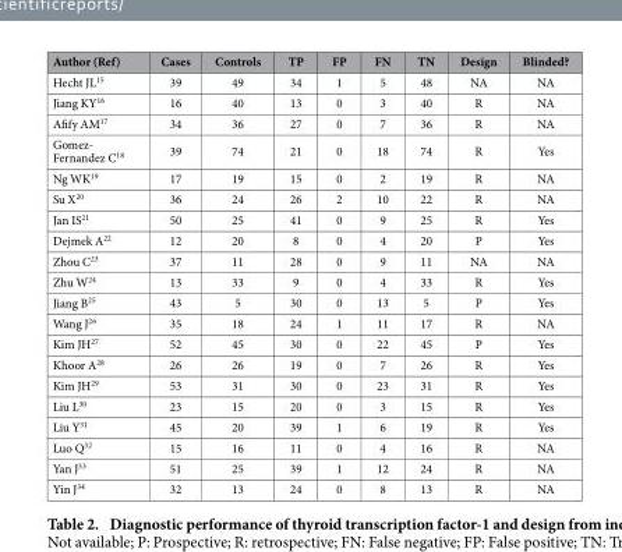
<table><thead><tr><td>Author (Ref)</td><td>Cases</td><td>Controls</td><td>TP</td><td>FP</td><td>FN</td><td>TN</td><td>Design</td><td>Blinded?</td></tr></thead><tbody><tr><td>Hecht JL<sup>15</sup></td><td>39</td><td>49</td><td>34</td><td>1</td><td>5</td><td>48</td><td>NA</td><td>NA</td></tr><tr><td>Jiang KY<sup>16</sup></td><td>16</td><td>40</td><td>13</td><td>0</td><td>3</td><td>40</td><td>R</td><td>NA</td></tr><tr><td>Afify AM<sup>17</sup></td><td>34</td><td>36</td><td>27</td><td>0</td><td>7</td><td>36</td><td>R</td><td>NA</td></tr><tr><td>Gomez- Fernandez C<sup>18</sup></td><td>39</td><td>74</td><td>21</td><td>0</td><td>18</td><td>74</td><td>R</td><td>Yes</td></tr><tr><td>Ng WK<sup>19</sup></td><td>17</td><td>19</td><td>15</td><td>0</td><td>2</td><td>19</td><td>R</td><td>NA</td></tr><tr><td>Su X<sup>20</sup></td><td>36</td><td>24</td><td>26</td><td>2</td><td>10</td><td>22</td><td>R</td><td>NA</td></tr><tr><td>Jan IS<sup>21</sup></td><td>50</td><td>25</td><td>41</td><td>0</td><td>9</td><td>25</td><td>R</td><td>Yes</td></tr><tr><td>Dejmek A<sup>22</sup></td><td>12</td><td>20</td><td>8</td><td>0</td><td>4</td><td>20</td><td>P</td><td>Yes</td></tr><tr><td>Zhou C<sup>23</sup></td><td>37</td><td>11</td><td>28</td><td>0</td><td>9</td><td>11</td><td>NA</td><td>NA</td></tr><tr><td>Zhu W<sup>24</sup></td><td>13</td><td>33</td><td>9</td><td>0</td><td>4</td><td>33</td><td>R</td><td>Yes</td></tr><tr><td>Jiang B<sup>25</sup></td><td>43</td><td>5</td><td>30</td><td>0</td><td>13</td><td>5</td><td>P</td><td>Yes</td></tr><tr><td>Wang J<sup>26</sup></td><td>35</td><td>18</td><td>24</td><td>1</td><td>11</td><td>17</td><td>R</td><td>NA</td></tr><tr><td>Kim JH<sup>27</sup></td><td>52</td><td>45</td><td>30</td><td>0</td><td>22</td><td>45</td><td>P</td><td>Yes</td></tr><tr><td>Khoor A<sup>28</sup></td><td>26</td><td>26</td><td>19</td><td>0</td><td>7</td><td>26</td><td>R</td><td>Yes</td></tr><tr><td>Kim JH<sup>29</sup></td><td>53</td><td>31</td><td>30</td><td>0</td><td>23</td><td>31</td><td>R</td><td>Yes</td></tr><tr><td>Liu L<sup>30</sup></td><td>23</td><td>15</td><td>20</td><td>0</td><td>3</td><td>15</td><td>R</td><td>Yes</td></tr><tr><td>Liu Y<sup>31</sup></td><td>45</td><td>20</td><td>39</td><td>1</td><td>6</td><td>19</td><td>R</td><td>Yes</td></tr><tr><td>Luo Q<sup>32</sup></td><td>15</td><td>16</td><td>11</td><td>0</td><td>4</td><td>16</td><td>R</td><td>NA</td></tr><tr><td>Yan J<sup>33</sup></td><td>51</td><td>25</td><td>39</td><td>1</td><td>12</td><td>24</td><td>R</td><td>NA</td></tr><tr><td>Yin J<sup>34</sup></td><td>32</td><td>13</td><td>24</td><td>0</td><td>8</td><td>13</td><td>R</td><td>NA</td></tr></tbody></table>